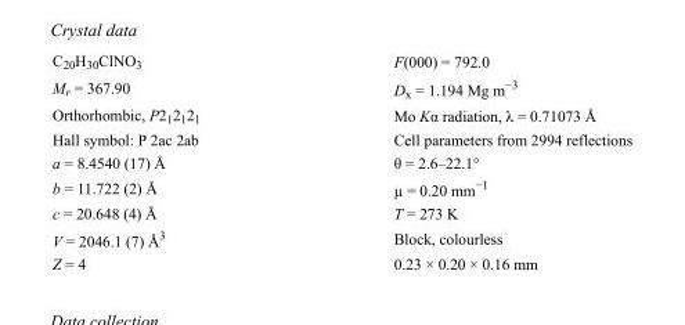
<table><tbody><tr><td>C<sub>20</sub>H<sub>30</sub>ClNO<sub>3</sub></td><td>F(000) = 792.0</td></tr><tr><td>M<sub>r</sub> = 367.90</td><td>D<sub>x</sub> = 1.194 Mg m<sup>−3</sup></td></tr><tr><td>Orthorhombic, P2<sub>1</sub>2<sub>1</sub>2<sub>1</sub></td><td>Mo Kα radiation, λ = 0.71073 Å</td></tr><tr><td>Hall symbol: P 2ac 2ab</td><td>Cell parameters from 2994 reflections</td></tr><tr><td>a = 8.4540 (17) Å</td><td>θ = 2.6–22.1°</td></tr><tr><td>b = 11.722 (2) Å</td><td>µ = 0.20 mm<sup>−1</sup></td></tr><tr><td>c = 20.648 (4) Å</td><td>T = 273 K</td></tr><tr><td>V = 2046.1 (7) Å<sup>3</sup></td><td>Block, colourless</td></tr><tr><td>Z = 4</td><td>0.23 × 0.20 × 0.16 mm</td></tr></tbody></table>